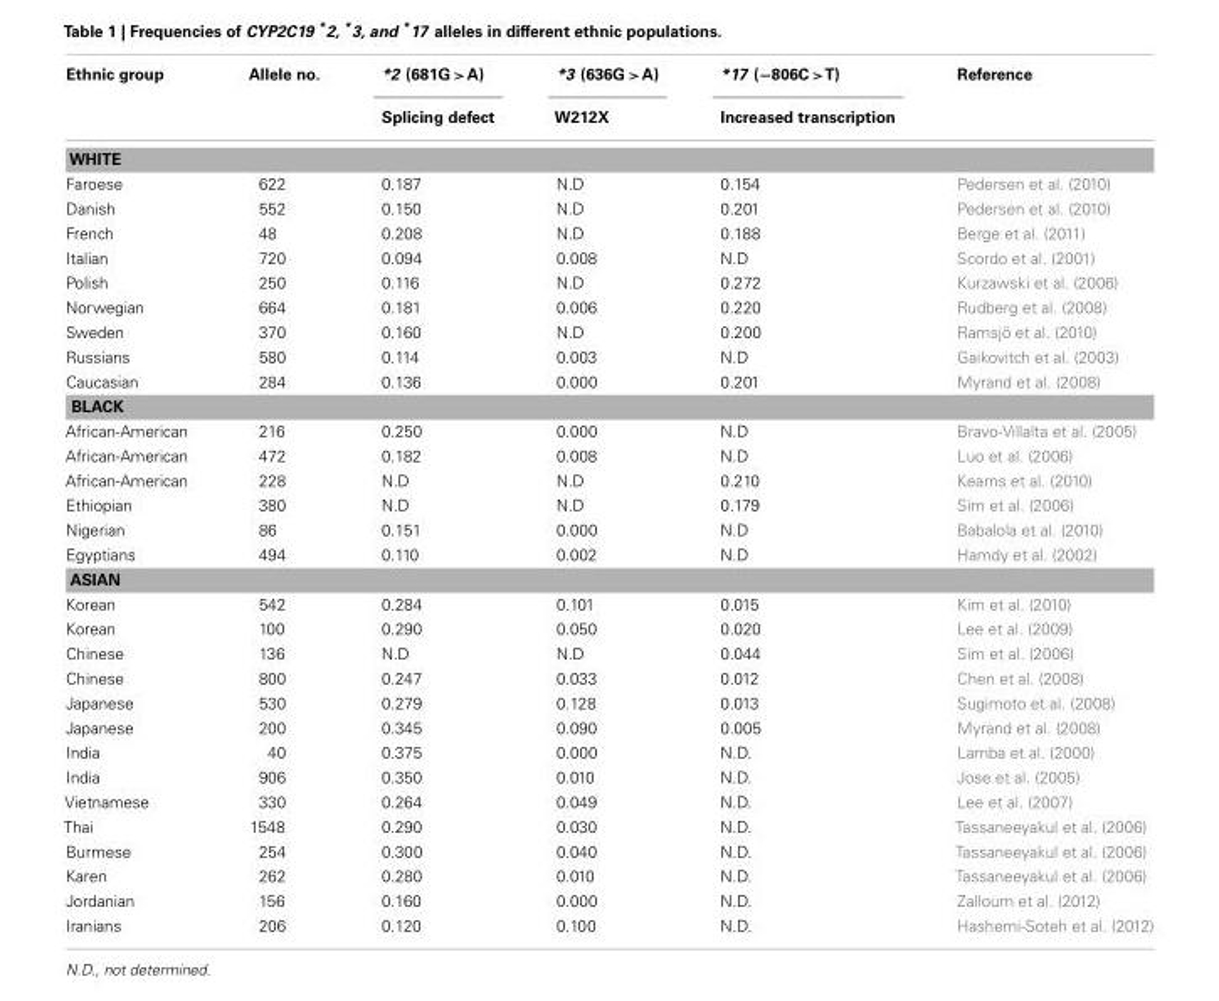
<table><thead><tr><td rowspan="2">Ethnic group</td><td rowspan="2">Allele no.</td><td rowspan="2">*2 (681G &gt;A) Splicing defect</td><td rowspan="2">*3 (636G &gt;A) W212X</td><td rowspan="2">*17 (−806C &gt;T) Increased transcription</td><td rowspan="2">Reference</td></tr><tr></tr></thead><tbody><tr><td colspan="6">WHITE</td></tr><tr><td>Faroese</td><td>622</td><td>0.187</td><td>N.D</td><td>0.154</td><td>Pedersen et al. (2010)</td></tr><tr><td>Danish</td><td>552</td><td>0.150</td><td>N.D</td><td>0.201</td><td>Pedersen et al. (2010)</td></tr><tr><td>French</td><td>48</td><td>0.208</td><td>N.D</td><td>0.188</td><td>Berge et al. (2011)</td></tr><tr><td>Italian</td><td>720</td><td>0.094</td><td>0.008</td><td>N.D</td><td>Scordo et al. (2001)</td></tr><tr><td>Polish</td><td>250</td><td>0.116</td><td>N.D</td><td>0.272</td><td>Kurzawski et al. (2006)</td></tr><tr><td>Norwegian</td><td>664</td><td>0.181</td><td>0.006</td><td>0.220</td><td>Rudberg et al. (2008)</td></tr><tr><td>Sweden</td><td>370</td><td>0.160</td><td>N.D</td><td>0.200</td><td>Ramsjö et al. (2010)</td></tr><tr><td>Russians</td><td>580</td><td>0.114</td><td>0.003</td><td>N.D</td><td>Gaikovitch et al. (2003)</td></tr><tr><td>Caucasian</td><td>284</td><td>0.136</td><td>0.000</td><td>0.201</td><td>Myrand et al. (2008)</td></tr><tr><td colspan="6">BLACK</td></tr><tr><td>African-American</td><td>216</td><td>0.250</td><td>0.000</td><td>N.D</td><td>Bravo-Villalta et al. (2005)</td></tr><tr><td>African-American</td><td>472</td><td>0.182</td><td>0.008</td><td>N.D</td><td>Luo et al. (2006)</td></tr><tr><td>African-American</td><td>228</td><td>N.D</td><td>N.D</td><td>0.210</td><td>Kearns et al. (2010)</td></tr><tr><td>Ethiopian</td><td>380</td><td>N.D</td><td>N.D</td><td>0.179</td><td>Sim et al. (2006)</td></tr><tr><td>Nigerian</td><td>86</td><td>0.151</td><td>0.000</td><td>N.D</td><td>Babalola et al. (2010)</td></tr><tr><td>Egyptians</td><td>494</td><td>0.110</td><td>0.002</td><td>N.D</td><td>Hamdy et al. (2002)</td></tr><tr><td colspan="6">ASIAN</td></tr><tr><td>Korean</td><td>542</td><td>0.284</td><td>0.101</td><td>0.015</td><td>Kim et al. (2010)</td></tr><tr><td>Korean</td><td>100</td><td>0.290</td><td>0.050</td><td>0.020</td><td>Lee et al. (2009)</td></tr><tr><td>Chinese</td><td>136</td><td>N.D</td><td>N.D</td><td>0.044</td><td>Sim et al. (2006)</td></tr><tr><td>Chinese</td><td>800</td><td>0.247</td><td>0.033</td><td>0.012</td><td>Chen et al. (2008)</td></tr><tr><td>Japanese</td><td>530</td><td>0.279</td><td>0.128</td><td>0.013</td><td>Sugimoto et al. (2008)</td></tr><tr><td>Japanese</td><td>200</td><td>0.345</td><td>0.090</td><td>0.005</td><td>Myrand et al. (2008)</td></tr><tr><td>India</td><td>40</td><td>0.375</td><td>0.000</td><td>N.D.</td><td>Lamba et al. (2000)</td></tr><tr><td>India</td><td>906</td><td>0.350</td><td>0.010</td><td>N.D.</td><td>Jose et al. (2005)</td></tr><tr><td>Vietnamese</td><td>330</td><td>0.264</td><td>0.049</td><td>N.D.</td><td>Lee et al. (2007)</td></tr><tr><td>Thai</td><td>1548</td><td>0.290</td><td>0.030</td><td>N.D.</td><td>Tassaneeyakul et al. (2006)</td></tr><tr><td>Burmese</td><td>254</td><td>0.300</td><td>0.040</td><td>N.D.</td><td>Tassaneeyakul et al. (2006)</td></tr><tr><td>Karen</td><td>262</td><td>0.280</td><td>0.010</td><td>N.D.</td><td>Tassaneeyakul et al. (2006)</td></tr><tr><td>Jordanian</td><td>156</td><td>0.160</td><td>0.000</td><td>N.D.</td><td>Zalloum et al. (2012)</td></tr><tr><td>Iranians</td><td>206</td><td>0.120</td><td>0.100</td><td>N.D.</td><td>Hashemi-Soteh et al. (2012)</td></tr></tbody></table>